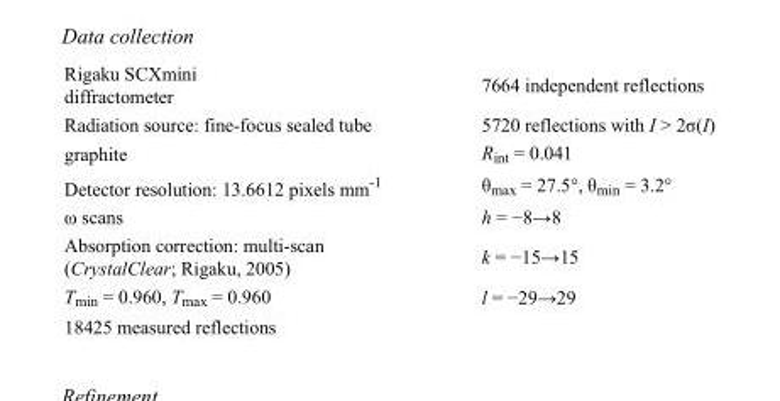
<table><tbody><tr><td>Rigaku SCXmini diffractometer</td><td>7664 independent reflections</td></tr><tr><td>Radiation source: fine-focus sealed tube</td><td>5720 reflections with I &gt; 2σ(I)</td></tr><tr><td>graphite</td><td>R<sub>int</sub> = 0.041</td></tr><tr><td>Detector resolution: 13.6612 pixels mm<sup>-1</sup></td><td>θ<sub>max</sub> = 27.5°, θ<sub>min</sub> = 3.2°</td></tr><tr><td>ω scans</td><td>h = −8→8</td></tr><tr><td>Absorption correction: multi-scan (CrystalClear; Rigaku, 2005)</td><td>k = −15→15</td></tr><tr><td>T<sub>min</sub> = 0.960, T<sub>max</sub> = 0.960</td><td>l = −29→29</td></tr><tr><td>18425 measured reflections</td><td></td></tr></tbody></table>